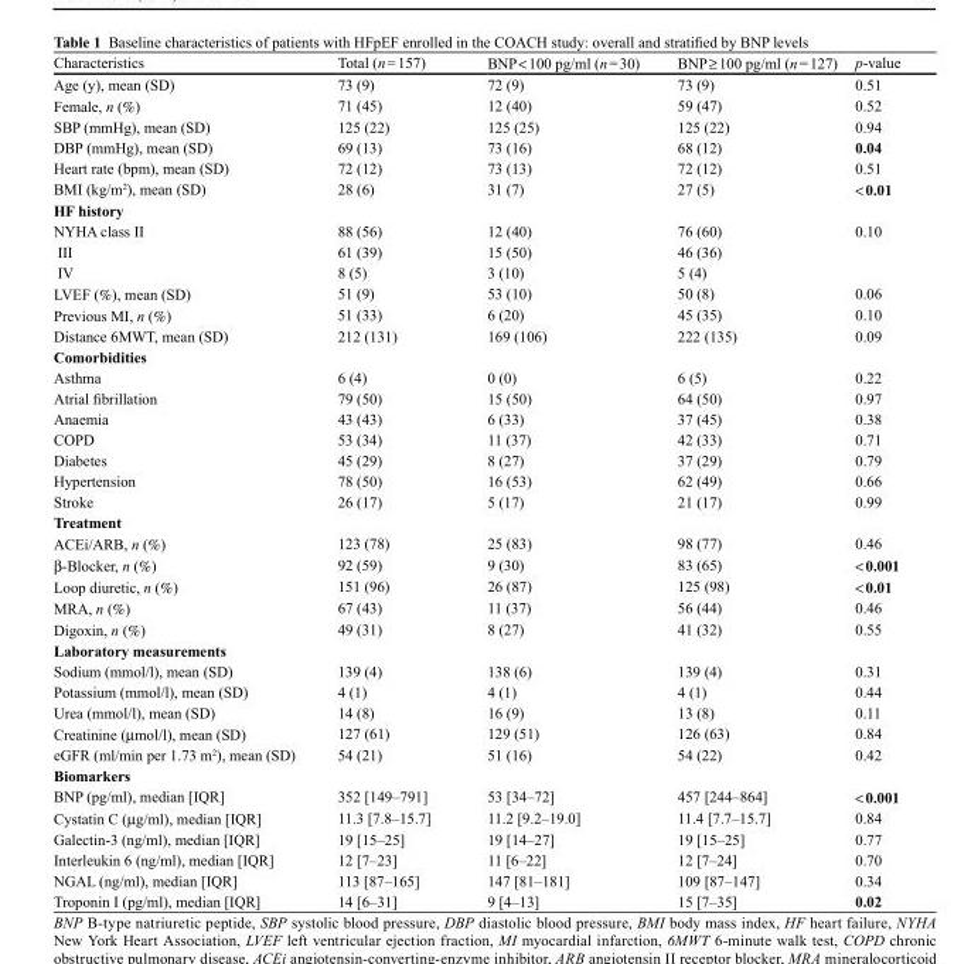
<table><thead><tr><td>Characteristics</td><td>Total (n = 157)</td><td>BNP &lt; 100 pg/ml (n = 30)</td><td>BNP ≥ 100 pg/ml (n = 127)</td><td>p-value</td></tr></thead><tbody><tr><td>Age (y), mean (SD)</td><td>73 (9)</td><td>72 (9)</td><td>73 (9)</td><td>0.51</td></tr><tr><td>Female, n (%)</td><td>71 (45)</td><td>12 (40)</td><td>59 (47)</td><td>0.52</td></tr><tr><td>SBP (mmHg), mean (SD)</td><td>125 (22)</td><td>125 (25)</td><td>125 (22)</td><td>0.94</td></tr><tr><td>DBP (mmHg), mean (SD)</td><td>69 (13)</td><td>73 (16)</td><td>68 (12)</td><td>0.04</td></tr><tr><td>Heart rate (bpm), mean (SD)</td><td>72 (12)</td><td>73 (13)</td><td>72 (12)</td><td>0.51</td></tr><tr><td>BMI (kg/m<sup>2</sup>), mean (SD)</td><td>28 (6)</td><td>31 (7)</td><td>27 (5)</td><td>&lt; 0.01</td></tr><tr><td colspan="5">HF history</td></tr><tr><td>NYHA class II</td><td>88 (56)</td><td>12 (40)</td><td>76 (60)</td><td>0.10</td></tr><tr><td>III</td><td>61 (39)</td><td>15 (50)</td><td>46 (36)</td><td></td></tr><tr><td>IV</td><td>8 (5)</td><td>3 (10)</td><td>5 (4)</td><td></td></tr><tr><td>LVEF (%), mean (SD)</td><td>51 (9)</td><td>53 (10)</td><td>50 (8)</td><td>0.06</td></tr><tr><td>Previous MI, n (%)</td><td>51 (33)</td><td>6 (20)</td><td>45 (35)</td><td>0.10</td></tr><tr><td>Distance 6MWT, mean (SD)</td><td>212 (131)</td><td>169 (106)</td><td>222 (135)</td><td>0.09</td></tr><tr><td colspan="5">Comorbidities</td></tr><tr><td>Asthma</td><td>6 (4)</td><td>0 (0)</td><td>6 (5)</td><td>0.22</td></tr><tr><td>Atrial fibrillation</td><td>79 (50)</td><td>15 (50)</td><td>64 (50)</td><td>0.97</td></tr><tr><td>Anaemia</td><td>43 (43)</td><td>6 (33)</td><td>37 (45)</td><td>0.38</td></tr><tr><td>COPD</td><td>53 (34)</td><td>11 (37)</td><td>42 (33)</td><td>0.71</td></tr><tr><td>Diabetes</td><td>45 (29)</td><td>8 (27)</td><td>37 (29)</td><td>0.79</td></tr><tr><td>Hypertension</td><td>78 (50)</td><td>16 (53)</td><td>62 (49)</td><td>0.66</td></tr><tr><td>Stroke</td><td>26 (17)</td><td>5 (17)</td><td>21 (17)</td><td>0.99</td></tr><tr><td colspan="5">Treatment</td></tr><tr><td>ACEi/ARB, n (%)</td><td>123 (78)</td><td>25 (83)</td><td>98 (77)</td><td>0.46</td></tr><tr><td>β-Blocker, n (%)</td><td>92 (59)</td><td>9 (30)</td><td>83 (65)</td><td>&lt; 0.001</td></tr><tr><td>Loop diuretic, n (%)</td><td>151 (96)</td><td>26 (87)</td><td>125 (98)</td><td>&lt; 0.01</td></tr><tr><td>MRA, n (%)</td><td>67 (43)</td><td>11 (37)</td><td>56 (44)</td><td>0.46</td></tr><tr><td>Digoxin, n (%)</td><td>49 (31)</td><td>8 (27)</td><td>41 (32)</td><td>0.55</td></tr><tr><td colspan="5">Laboratory measurements</td></tr><tr><td>Sodium (mmol/l), mean (SD)</td><td>139 (4)</td><td>138 (6)</td><td>139 (4)</td><td>0.31</td></tr><tr><td>Potassium (mmol/l), mean (SD)</td><td>4 (1)</td><td>4 (1)</td><td>4 (1)</td><td>0.44</td></tr><tr><td>Urea (mmol/l), mean (SD)</td><td>14 (8)</td><td>16 (9)</td><td>13 (8)</td><td>0.11</td></tr><tr><td>Creatinine (µmol/l), mean (SD)</td><td>127 (61)</td><td>129 (51)</td><td>126 (63)</td><td>0.84</td></tr><tr><td>eGFR (ml/min per 1.73 m<sup>2</sup>), mean (SD)</td><td>54 (21)</td><td>51 (16)</td><td>54 (22)</td><td>0.42</td></tr><tr><td colspan="5">Biomarkers</td></tr><tr><td>BNP (pg/ml), median [IQR]</td><td>352 [149–791]</td><td>53 [34–72]</td><td>457 [244–864]</td><td>&lt; 0.001</td></tr><tr><td>Cystatin C (µg/ml), median [IQR]</td><td>11.3 [7.8–15.7]</td><td>11.2 [9.2–19.0]</td><td>11.4 [7.7–15.7]</td><td>0.84</td></tr><tr><td>Galectin-3 (ng/ml), median [IQR]</td><td>19 [15–25]</td><td>19 [14–27]</td><td>19 [15–25]</td><td>0.77</td></tr><tr><td>Interleukin 6 (ng/ml), median [IQR]</td><td>12 [7–23]</td><td>11 [6–22]</td><td>12 [7–24]</td><td>0.70</td></tr><tr><td>NGAL (ng/ml), median [IQR]</td><td>113 [87–165]</td><td>147 [81–181]</td><td>109 [87–147]</td><td>0.34</td></tr><tr><td>Troponin I (pg/ml), median [IQR]</td><td>14 [6–31]</td><td>9 [4–13]</td><td>15 [7–35]</td><td>0.02</td></tr></tbody></table>